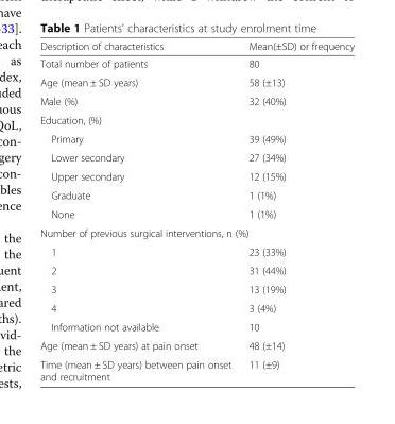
<table><thead><tr><td>Description of characteristics</td><td>Mean(±SD) or frequency</td></tr></thead><tbody><tr><td>Total number of patients</td><td>80</td></tr><tr><td>Age (mean ± SD years)</td><td>58 (±13)</td></tr><tr><td>Male (%)</td><td>32 (40%)</td></tr><tr><td colspan="2">Education, (%)</td></tr><tr><td>Primary</td><td>39 (49%)</td></tr><tr><td>Lower secondary</td><td>27 (34%)</td></tr><tr><td>Upper secondary</td><td>12 (15%)</td></tr><tr><td>Graduate</td><td>1 (1%)</td></tr><tr><td>None</td><td>1 (1%)</td></tr><tr><td colspan="2">Number of previous surgical interventions, n (%)</td></tr><tr><td>1</td><td>23 (33%)</td></tr><tr><td>2</td><td>31 (44%)</td></tr><tr><td>3</td><td>13 (19%)</td></tr><tr><td>4</td><td>3 (4%)</td></tr><tr><td>Information not available</td><td>10</td></tr><tr><td>Age (mean ± SD years) at pain onset</td><td>48 (±14)</td></tr><tr><td>Time (mean ± SD years) between pain onset and recruitment</td><td>11 (±9)</td></tr></tbody></table>